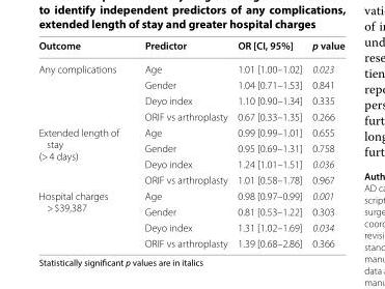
<table><thead><tr><td>Outcome</td><td>Predictor</td><td>OR [CI, 95%]</td><td>p value</td></tr></thead><tbody><tr><td rowspan="4">Any complications</td><td>Age</td><td>1.01 [1.00–1.02]</td><td>0.023</td></tr><tr><td>Gender</td><td>1.04 [0.71–1.53]</td><td>0.841</td></tr><tr><td>Deyo index</td><td>1.10 [0.90–1.34]</td><td>0.335</td></tr><tr><td>ORIF vs arthroplasty</td><td>0.67 [0.33–1.35]</td><td>0.266</td></tr><tr><td rowspan="4">Extended length of stay (&gt; 4 days)</td><td>Age</td><td>0.99 [0.99–1.01]</td><td>0.655</td></tr><tr><td>Gender</td><td>0.95 [0.69–1.31]</td><td>0.758</td></tr><tr><td>Deyo index</td><td>1.24 [1.01–1.51]</td><td>0.036</td></tr><tr><td>ORIF vs arthroplasty</td><td>1.01 [0.58–1.78]</td><td>0.967</td></tr><tr><td rowspan="4">Hospital charges &gt; $39,387</td><td>Age</td><td>0.98 [0.97–0.99]</td><td>0.001</td></tr><tr><td>Gender</td><td>0.81 [0.53–1.22]</td><td>0.303</td></tr><tr><td>Deyo index</td><td>1.31 [1.02–1.69]</td><td>0.034</td></tr><tr><td>ORIF vs arthroplasty</td><td>1.39 [0.68–2.86]</td><td>0.366</td></tr></tbody></table>